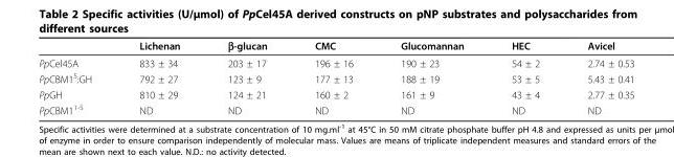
<table><thead><tr><td></td><td>Lichenan</td><td>β-glucan</td><td>CMC</td><td>Glucomannan</td><td>HEC</td><td>Avicel</td></tr></thead><tbody><tr><td>PpCel45A</td><td>833 ± 34</td><td>203 ± 17</td><td>196 ± 16</td><td>190 ± 23</td><td>54 ± 2</td><td>2.74 ± 0.53</td></tr><tr><td>PpCBM1<sup>5</sup>:GH</td><td>792 ± 27</td><td>123 ± 9</td><td>177 ± 13</td><td>188 ± 19</td><td>53 ± 5</td><td>5.43 ± 0.41</td></tr><tr><td>PpGH</td><td>810 ± 29</td><td>124 ± 21</td><td>160 ± 2</td><td>161 ± 9</td><td>43 ± 4</td><td>2.77 ± 0.35</td></tr><tr><td>PpCBM1<sup>1-5</sup></td><td>ND</td><td>ND</td><td>ND</td><td>ND</td><td>ND</td><td>ND</td></tr></tbody></table>